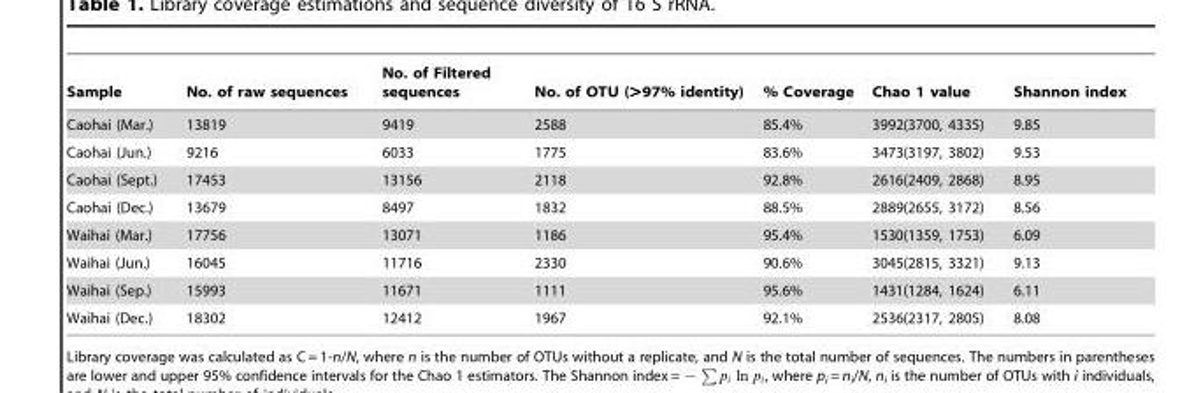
<table><thead><tr><td>Sample</td><td>No. of raw sequences</td><td>No. of Filtered sequences</td><td>No. of OTU (&gt;97% identity)</td><td>% Coverage</td><td>Chao 1 value</td><td>Shannon index</td></tr></thead><tbody><tr><td>Caohai (Mar.)</td><td>13819</td><td>9419</td><td>2588</td><td>85.4%</td><td>3992(3700, 4335)</td><td>9.85</td></tr><tr><td>Caohai (Jun.)</td><td>9216</td><td>6033</td><td>1775</td><td>83.6%</td><td>3473(3197, 3802)</td><td>9.53</td></tr><tr><td>Caohai (Sept.)</td><td>17453</td><td>13156</td><td>2118</td><td>92.8%</td><td>2616(2409, 2868)</td><td>8.95</td></tr><tr><td>Caohai (Dec.)</td><td>13679</td><td>8497</td><td>1832</td><td>88.5%</td><td>2889(2655, 3172)</td><td>8.56</td></tr><tr><td>Waihai (Mar.)</td><td>17756</td><td>13071</td><td>1186</td><td>95.4%</td><td>1530(1359, 1753)</td><td>6.09</td></tr><tr><td>Waihai (Jun.)</td><td>16045</td><td>11716</td><td>2330</td><td>90.6%</td><td>3045(2815, 3321)</td><td>9.13</td></tr><tr><td>Waihai (Sep.)</td><td>15993</td><td>11671</td><td>1111</td><td>95.6%</td><td>1431(1284, 1624)</td><td>6.11</td></tr><tr><td>Waihai (Dec.)</td><td>18302</td><td>12412</td><td>1967</td><td>92.1%</td><td>2536(2317, 2805)</td><td>8.08</td></tr></tbody></table>